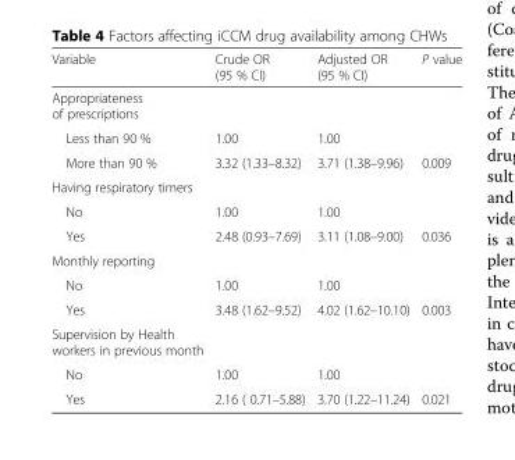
<table><thead><tr><td>Variable</td><td>Crude OR (95 % CI)</td><td>Adjusted OR (95 % CI)</td><td>P value</td></tr></thead><tbody><tr><td colspan="4">Appropriateness of prescriptions</td></tr><tr><td>Less than 90 %</td><td>1.00</td><td>1.00</td><td></td></tr><tr><td>More than 90 %</td><td>3.32 (1.33–8.32)</td><td>3.71 (1.38–9.96)</td><td>0.009</td></tr><tr><td colspan="4">Having respiratory timers</td></tr><tr><td>No</td><td>1.00</td><td>1.00</td><td></td></tr><tr><td>Yes</td><td>2.48 (0.93–7.69)</td><td>3.11 (1.08–9.00)</td><td>0.036</td></tr><tr><td colspan="4">Monthly reporting</td></tr><tr><td>No</td><td>1.00</td><td>1.00</td><td></td></tr><tr><td>Yes</td><td>3.48 (1.62–9.52)</td><td>4.02 (1.62–10.10)</td><td>0.003</td></tr><tr><td colspan="4">Supervision by Health workers in previous month</td></tr><tr><td>No</td><td>1.00</td><td>1.00</td><td></td></tr><tr><td>Yes</td><td>2.16 ( 0.71–5.88)</td><td>3.70 (1.22–11.24)</td><td>0.021</td></tr></tbody></table>